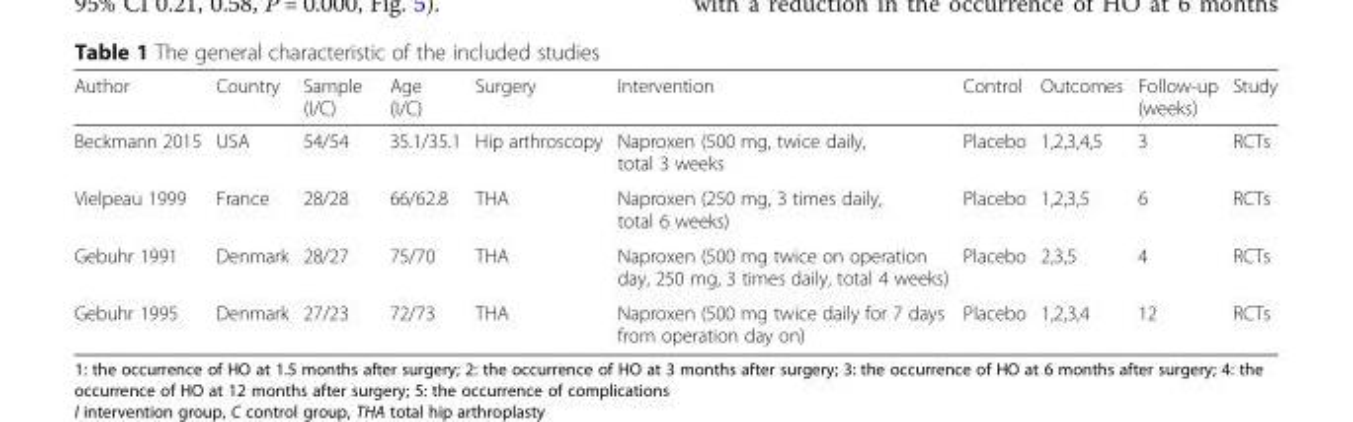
<table><thead><tr><td>Author</td><td>Country</td><td>Sample (I/C)</td><td>Age (I/C)</td><td>Surgery</td><td>Intervention</td><td>Control</td><td>Outcomes</td><td>Follow-up (weeks)</td><td>Study</td></tr></thead><tbody><tr><td>Beckmann 2015</td><td>USA</td><td>54/54</td><td>35.1/35.1</td><td>Hip arthroscopy</td><td>Naproxen (500 mg, twice daily, total 3 weeks</td><td>Placebo</td><td>1,2,3,4,5</td><td>3</td><td>RCTs</td></tr><tr><td>Vielpeau 1999</td><td>France</td><td>28/28</td><td>66/62.8</td><td>THA</td><td>Naproxen (250 mg, 3 times daily, total 6 weeks)</td><td>Placebo</td><td>1,2,3,5</td><td>6</td><td>RCTs</td></tr><tr><td>Gebuhr 1991</td><td>Denmark</td><td>28/27</td><td>75/70</td><td>THA</td><td>Naproxen (500 mg twice on operation day, 250 mg, 3 times daily, total 4 weeks)</td><td>Placebo</td><td>2,3,5</td><td>4</td><td>RCTs</td></tr><tr><td>Gebuhr 1995</td><td>Denmark</td><td>27/23</td><td>72/73</td><td>THA</td><td>Naproxen (500 mg twice daily for 7 days from operation day on)</td><td>Placebo</td><td>1,2,3,4</td><td>12</td><td>RCTs</td></tr></tbody></table>